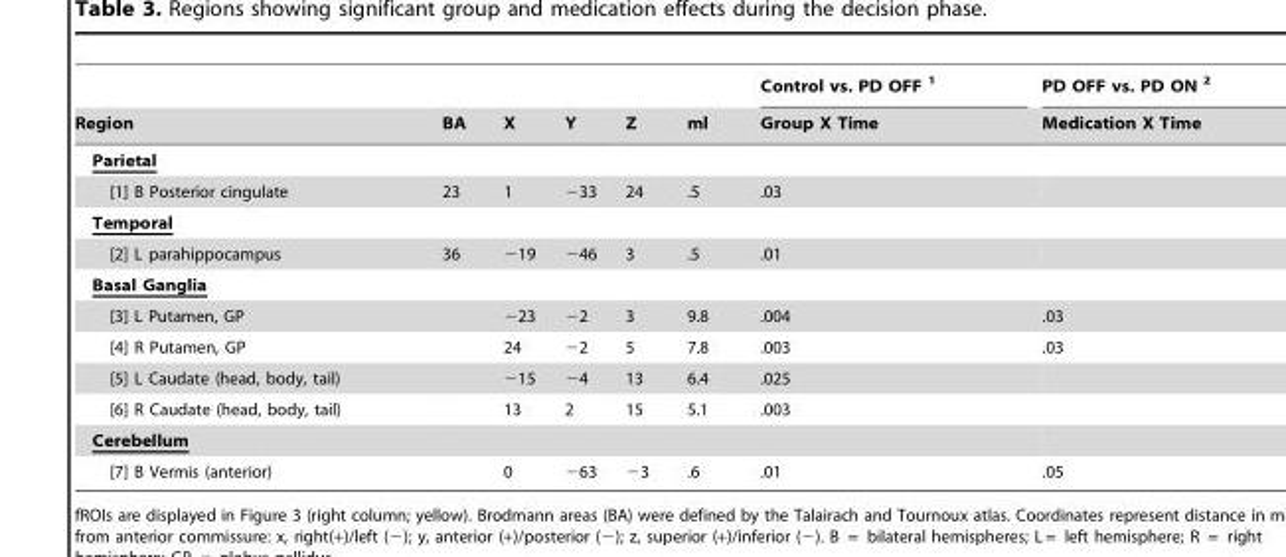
<table><thead><tr><td rowspan="2">Region</td><td rowspan="2">BA</td><td rowspan="2">X</td><td rowspan="2">Y</td><td rowspan="2">Z</td><td rowspan="2">ml</td><td rowspan="2">Control vs. PD OFF 1 Group X Time</td><td rowspan="2">PD OFF vs. PD ON 2 Medication X Time</td></tr><tr></tr></thead><tbody><tr><td colspan="8">Parietal</td></tr><tr><td>[1] B Posterior cingulate</td><td>23</td><td>1</td><td>−33</td><td>24</td><td>.5</td><td>.03</td><td></td></tr><tr><td colspan="8">Temporal</td></tr><tr><td>[2] L parahippocampus</td><td>36</td><td>−19</td><td>−46</td><td>3</td><td>.5</td><td>.01</td><td></td></tr><tr><td colspan="8">Basal Ganglia</td></tr><tr><td>[3] L Putamen, GP</td><td></td><td>−23</td><td>−2</td><td>3</td><td>9.8</td><td>.004</td><td>.03</td></tr><tr><td>[4] R Putamen, GP</td><td></td><td>24</td><td>−2</td><td>5</td><td>7.8</td><td>.003</td><td>.03</td></tr><tr><td>[5] L Caudate (head, body, tail)</td><td></td><td>−15</td><td>−4</td><td>13</td><td>6.4</td><td>.025</td><td></td></tr><tr><td>[6] R Caudate (head, body, tail)</td><td></td><td>13</td><td>2</td><td>15</td><td>5.1</td><td>.003</td><td></td></tr><tr><td colspan="8">Cerebellum</td></tr><tr><td>[7] B Vermis (anterior)</td><td></td><td>0</td><td>−63</td><td>−3</td><td>.6</td><td>.01</td><td>.05</td></tr></tbody></table>